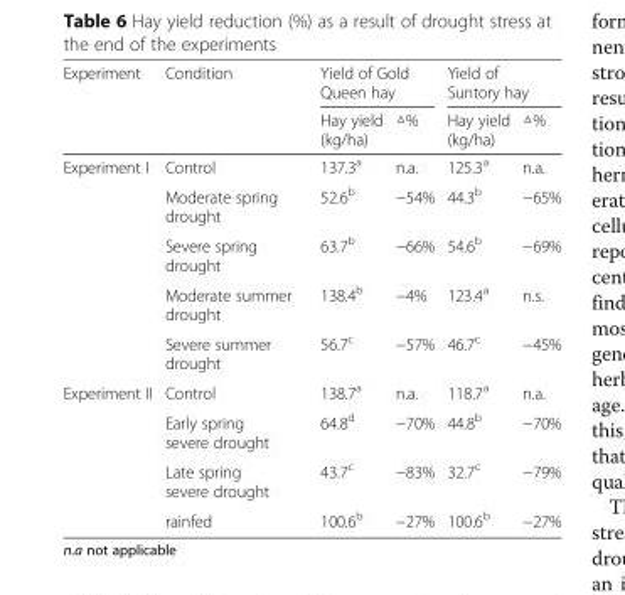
<table><thead><tr><td rowspan="2">Experiment</td><td rowspan="2">Condition</td><td colspan="2">Yield of Gold Queen hay</td><td colspan="2">Yield of Suntory hay</td></tr><tr><td>Hay yield (kg/ha)</td><td>△%</td><td>Hay yield (kg/ha)</td><td>△%</td></tr></thead><tbody><tr><td rowspan="5">Experiment I</td><td>Control</td><td>137.3<sup>a</sup></td><td>n.a.</td><td>125.3<sup>a</sup></td><td>n.a.</td></tr><tr><td>Moderate spring drought</td><td>52.6<sup>b</sup></td><td>−54%</td><td>44.3<sup>b</sup></td><td>−65%</td></tr><tr><td>Severe spring drought</td><td>63.7<sup>b</sup></td><td>−66%</td><td>54.6<sup>b</sup></td><td>−69%</td></tr><tr><td>Moderate summer drought</td><td>138.4<sup>b</sup></td><td>−4%</td><td>123.4<sup>a</sup></td><td>n.s.</td></tr><tr><td>Severe summer drought</td><td>56.7<sup>c</sup></td><td>−57%</td><td>46.7<sup>c</sup></td><td>−45%</td></tr><tr><td rowspan="4">Experiment II</td><td>Control</td><td>138.7<sup>a</sup></td><td>n.a.</td><td>118.7<sup>a</sup></td><td>n.a.</td></tr><tr><td>Early spring severe drought</td><td>64.8<sup>d</sup></td><td>−70%</td><td>44.8<sup>b</sup></td><td>−70%</td></tr><tr><td>Late spring severe drought</td><td>43.7<sup>c</sup></td><td>−83%</td><td>32.7<sup>c</sup></td><td>−79%</td></tr><tr><td>rainfed</td><td>100.6<sup>b</sup></td><td>−27%</td><td>100.6<sup>b</sup></td><td>−27%</td></tr></tbody></table>